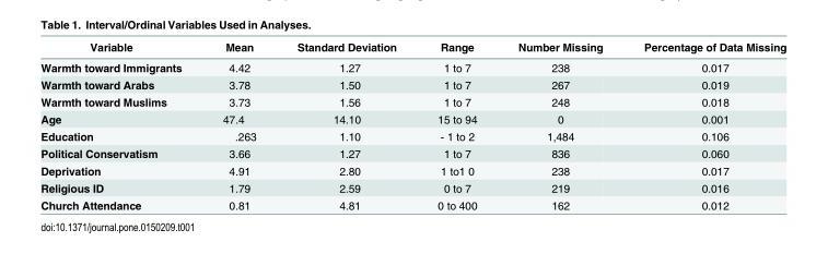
<table><thead><tr><td>Variable</td><td>Mean</td><td>Standard Deviation</td><td>Range</td><td>Number Missing</td><td>Percentage of Data Missing</td></tr></thead><tbody><tr><td>Warmth toward Immigrants</td><td>4.42</td><td>1.27</td><td>1 to 7</td><td>238</td><td>0.017</td></tr><tr><td>Warmth toward Arabs</td><td>3.78</td><td>1.50</td><td>1 to 7</td><td>267</td><td>0.019</td></tr><tr><td>Warmth toward Muslims</td><td>3.73</td><td>1.56</td><td>1 to 7</td><td>248</td><td>0.018</td></tr><tr><td>Age</td><td>47.4</td><td>14.10</td><td>15 to 94</td><td>0</td><td>0.001</td></tr><tr><td>Education</td><td>.263</td><td>1.10</td><td>- 1 to 2</td><td>1,484</td><td>0.106</td></tr><tr><td>Political Conservatism</td><td>3.66</td><td>1.27</td><td>1 to 7</td><td>836</td><td>0.060</td></tr><tr><td>Deprivation</td><td>4.91</td><td>2.80</td><td>1 to1 0</td><td>238</td><td>0.017</td></tr><tr><td>Religious ID</td><td>1.79</td><td>2.59</td><td>0 to 7</td><td>219</td><td>0.016</td></tr><tr><td>Church Attendance</td><td>0.81</td><td>4.81</td><td>0 to 400</td><td>162</td><td>0.012</td></tr></tbody></table>